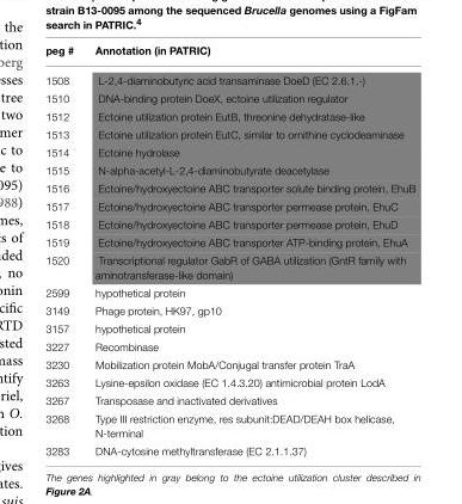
<table><thead><tr><td>peg #</td><td>Annotation (in PATRIC)</td></tr></thead><tbody><tr><td>1508</td><td>L-2,4-diaminobutyric acid transaminase DoeD (EC 2.6.1.-)</td></tr><tr><td>1510</td><td>DNA-binding protein DoeX, ectoine utilization regulator</td></tr><tr><td>1512</td><td>Ectoine utilization protein EutB, threonine dehydratase-like</td></tr><tr><td>1513</td><td>Ectoine utilization protein EutC, similar to ornithine cyclodeaminase</td></tr><tr><td>1514</td><td>Ectoine hydrolase</td></tr><tr><td>1515</td><td>N-alpha-acetyl-L-2,4-diaminobutyrate deacetylase</td></tr><tr><td>1516</td><td>Ectoine/hydroxyectoine ABC transporter solute binding protein, EhuB</td></tr><tr><td>1517</td><td>Ectoine/hydroxyectoine ABC transporter permease protein, EhuC</td></tr><tr><td>1518</td><td>Ectoine/hydroxyectoine ABC transporter permease protein, EhuD</td></tr><tr><td>1519</td><td>Ectoine/hydroxyectoine ABC transporter ATP-binding protein, EhuA</td></tr><tr><td>1520</td><td>Transcriptional regulator GabR of GABA utilization (GntR family with aminotransferase-like domain)</td></tr><tr><td>2599</td><td>hypothetical protein</td></tr><tr><td>3149</td><td>Phage protein, HK97, gp10</td></tr><tr><td>3157</td><td>hypothetical protein</td></tr><tr><td>3227</td><td>Recombinase</td></tr><tr><td>3230</td><td>Mobilization protein MobA/Conjugal transfer protein TraA</td></tr><tr><td>3263</td><td>Lysine-epsilon oxidase (EC 1.4.3.20) antimicrobial protein LodA</td></tr><tr><td>3267</td><td>Transposase and inactivated derivatives</td></tr><tr><td>3268</td><td>Type III restriction enzyme, res subunit:DEAD/DEAH box helicase, N-terminal</td></tr><tr><td>3283</td><td>DNA-cytosine methyltransferase (EC 2.1.1.37)</td></tr></tbody></table>